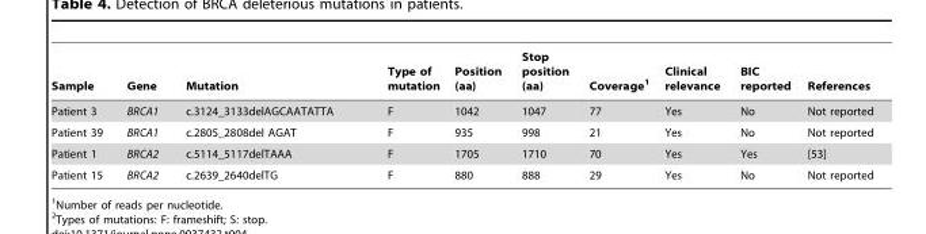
<table><thead><tr><td>Sample</td><td>Gene</td><td>Mutation</td><td>Type of mutation</td><td>Position (aa)</td><td>Stop position (aa)</td><td>Coverage<sup>1</sup></td><td>Clinical relevance</td><td>BIC reported</td><td>References</td></tr></thead><tbody><tr><td>Patient 3</td><td>BRCA1</td><td>c.3124_3133delAGCAATATTA</td><td>F</td><td>1042</td><td>1047</td><td>77</td><td>Yes</td><td>No</td><td>Not reported</td></tr><tr><td>Patient 39</td><td>BRCA1</td><td>c.2805_2808del AGAT</td><td>F</td><td>935</td><td>998</td><td>21</td><td>Yes</td><td>No</td><td>Not reported</td></tr><tr><td>Patient 1</td><td>BRCA2</td><td>c.5114_5117delTAAA</td><td>F</td><td>1705</td><td>1710</td><td>70</td><td>Yes</td><td>Yes</td><td>[53]</td></tr><tr><td>Patient 15</td><td>BRCA2</td><td>c.2639_2640delTG</td><td>F</td><td>880</td><td>888</td><td>29</td><td>Yes</td><td>No</td><td>Not reported</td></tr></tbody></table>